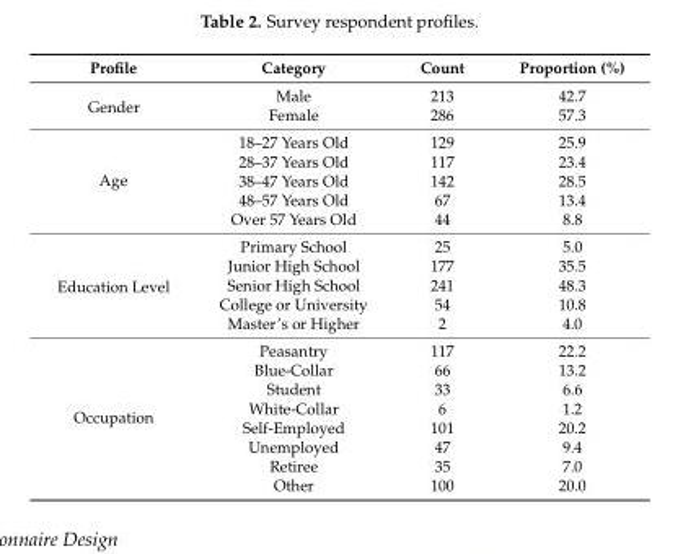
<table><thead><tr><td>Profile</td><td>Category</td><td>Count</td><td>Proportion (%)</td></tr></thead><tbody><tr><td rowspan="2">Gender</td><td>Male</td><td>213</td><td>42.7</td></tr><tr><td>Female</td><td>286</td><td>57.3</td></tr><tr><td rowspan="5">Age</td><td>18–27 Years Old</td><td>129</td><td>25.9</td></tr><tr><td>28–37 Years Old</td><td>117</td><td>23.4</td></tr><tr><td>38–47 Years Old</td><td>142</td><td>28.5</td></tr><tr><td>48–57 Years Old</td><td>67</td><td>13.4</td></tr><tr><td>Over 57 Years Old</td><td>44</td><td>8.8</td></tr><tr><td rowspan="5">Education Level</td><td>Primary School</td><td>25</td><td>5.0</td></tr><tr><td>Junior High School</td><td>177</td><td>35.5</td></tr><tr><td>Senior High School</td><td>241</td><td>48.3</td></tr><tr><td>College or University</td><td>54</td><td>10.8</td></tr><tr><td>Master’s or Higher</td><td>2</td><td>4.0</td></tr><tr><td rowspan="8">Occupation</td><td>Peasantry</td><td>117</td><td>22.2</td></tr><tr><td>Blue-Collar</td><td>66</td><td>13.2</td></tr><tr><td>Student</td><td>33</td><td>6.6</td></tr><tr><td>White-Collar</td><td>6</td><td>1.2</td></tr><tr><td>Self-Employed</td><td>101</td><td>20.2</td></tr><tr><td>Unemployed</td><td>47</td><td>9.4</td></tr><tr><td>Retiree</td><td>35</td><td>7.0</td></tr><tr><td>Other</td><td>100</td><td>20.0</td></tr></tbody></table>